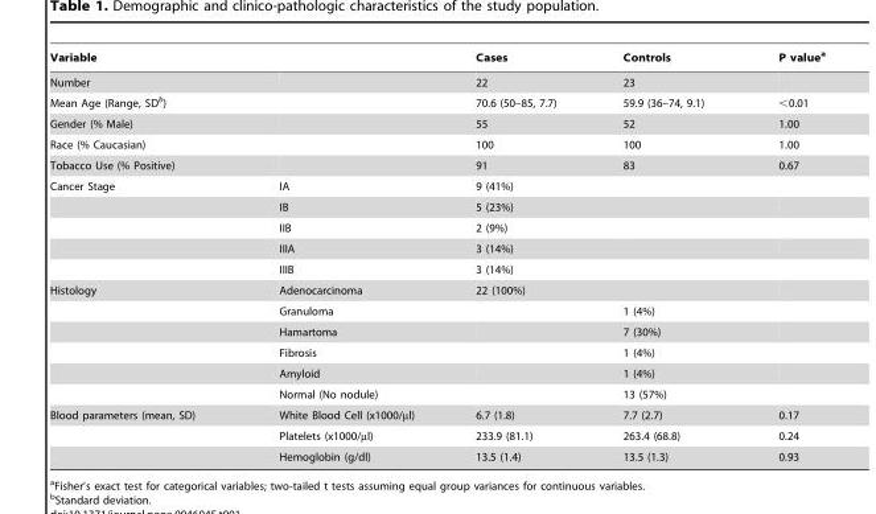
<table><thead><tr><td>Variable</td><td></td><td>Cases</td><td>Controls</td><td>P value<sup>a</sup></td></tr></thead><tbody><tr><td>Number</td><td></td><td>22</td><td>23</td><td></td></tr><tr><td>Mean Age (Range, SD<sup>b</sup>)</td><td></td><td>70.6 (50–85, 7.7)</td><td>59.9 (36–74, 9.1)</td><td>&lt;0.01</td></tr><tr><td>Gender (% Male)</td><td></td><td>55</td><td>52</td><td>1.00</td></tr><tr><td>Race (% Caucasian)</td><td></td><td>100</td><td>100</td><td>1.00</td></tr><tr><td>Tobacco Use (% Positive)</td><td></td><td>91</td><td>83</td><td>0.67</td></tr><tr><td rowspan="5">Cancer Stage</td><td>IA</td><td>9 (41%)</td><td></td><td></td></tr><tr><td>IB</td><td>5 (23%)</td><td></td><td></td></tr><tr><td>IIB</td><td>2 (9%)</td><td></td><td></td></tr><tr><td>IIIA</td><td>3 (14%)</td><td></td><td></td></tr><tr><td>IIIB</td><td>3 (14%)</td><td></td><td></td></tr><tr><td rowspan="6">Histology</td><td>Adenocarcinoma</td><td>22 (100%)</td><td></td><td></td></tr><tr><td>Granuloma</td><td></td><td>1 (4%)</td><td></td></tr><tr><td>Hamartoma</td><td></td><td>7 (30%)</td><td></td></tr><tr><td>Fibrosis</td><td></td><td>1 (4%)</td><td></td></tr><tr><td>Amyloid</td><td></td><td>1 (4%)</td><td></td></tr><tr><td>Normal (No nodule)</td><td></td><td>13 (57%)</td><td></td></tr><tr><td rowspan="3">Blood parameters (mean, SD)</td><td>White Blood Cell (x1000/µl)</td><td>6.7 (1.8)</td><td>7.7 (2.7)</td><td>0.17</td></tr><tr><td>Platelets (x1000/µl)</td><td>233.9 (81.1)</td><td>263.4 (68.8)</td><td>0.24</td></tr><tr><td>Hemoglobin (g/dl)</td><td>13.5 (1.4)</td><td>13.5 (1.3)</td><td>0.93</td></tr></tbody></table>